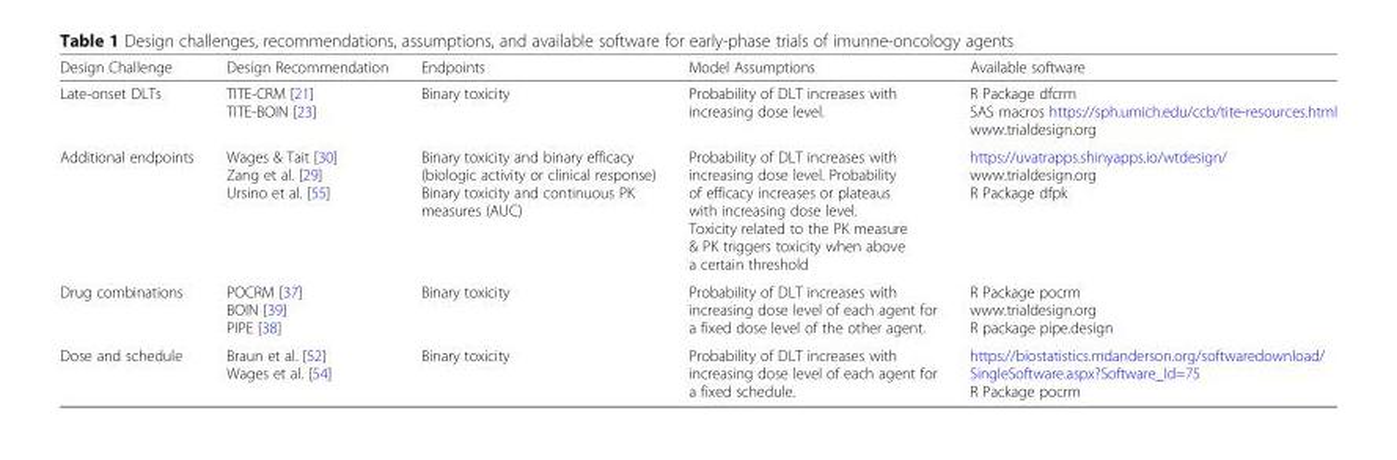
<table><thead><tr><td>Design Challenge</td><td>Design Recommendation</td><td>Endpoints</td><td>Model Assumptions</td><td>Available software</td></tr></thead><tbody><tr><td>Late-onset DLTs</td><td>TITE-CRM [21] TITE-BOIN [23]</td><td>Binary toxicity</td><td>Probability of DLT increases with increasing dose level.</td><td>R Package dfcrm SAS macros https://sph.umich.edu/ccb/tite-resources.html www.trialdesign.org</td></tr><tr><td>Additional endpoints</td><td>Wages &amp; Tait [30] Zang et al. [29] Ursino et al. [55]</td><td>Binary toxicity and binary efficacy (biologic activity or clinical response) Binary toxicity and continuous PK measures (AUC)</td><td>Probability of DLT increases with increasing dose level. Probability of efficacy increases or plateaus with increasing dose level. Toxicity related to the PK measure &amp; PK triggers toxicity when above a certain threshold</td><td>https://uvatrapps.shinyapps.io/wtdesign/ www.trialdesign.org R Package dfpk</td></tr><tr><td>Drug combinations</td><td>POCRM [37] BOIN [39] PIPE [38]</td><td>Binary toxicity</td><td>Probability of DLT increases with increasing dose level of each agent for a fixed dose level of the other agent.</td><td>R Package pocrm www.trialdesign.org R package pipe.design</td></tr><tr><td>Dose and schedule</td><td>Braun et al. [52] Wages et al. [54]</td><td>Binary toxicity</td><td>Probability of DLT increases with increasing dose level of each agent for a fixed schedule.</td><td>https://biostatistics.mdanderson.org/softwaredownload/ SingleSoftware.aspx?Software_Id=75 R Package pocrm</td></tr></tbody></table>